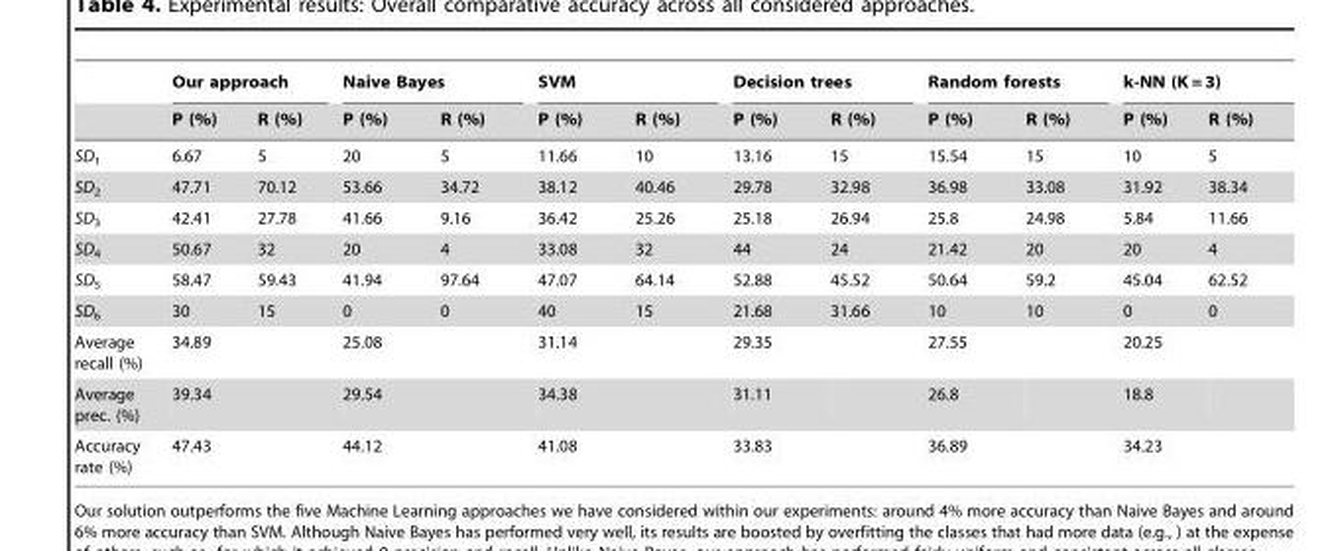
<table><thead><tr><td rowspan="2"></td><td colspan="2">Our approach</td><td colspan="2">Naive Bayes</td><td colspan="2">SVM</td><td colspan="2">Decision trees</td><td colspan="2">Random forests</td><td colspan="2">k-NN (K = 3)</td></tr><tr><td>P (%)</td><td>R (%)</td><td>P (%)</td><td>R (%)</td><td>P (%)</td><td>R (%)</td><td>P (%)</td><td>R (%)</td><td>P (%)</td><td>R (%)</td><td>P (%)</td><td>R (%)</td></tr></thead><tbody><tr><td>SD<sub>1</sub></td><td>6.67</td><td>5</td><td>20</td><td>5</td><td>11.66</td><td>10</td><td>13.16</td><td>15</td><td>15.54</td><td>15</td><td>10</td><td>5</td></tr><tr><td>SD<sub>2</sub></td><td>47.71</td><td>70.12</td><td>53.66</td><td>34.72</td><td>38.12</td><td>40.46</td><td>29.78</td><td>32.98</td><td>36.98</td><td>33.08</td><td>31.92</td><td>38.34</td></tr><tr><td>SD<sub>3</sub></td><td>42.41</td><td>27.78</td><td>41.66</td><td>9.16</td><td>36.42</td><td>25.26</td><td>25.18</td><td>26.94</td><td>25.8</td><td>24.98</td><td>5.84</td><td>11.66</td></tr><tr><td>SD<sub>4</sub></td><td>50.67</td><td>32</td><td>20</td><td>4</td><td>33.08</td><td>32</td><td>44</td><td>24</td><td>21.42</td><td>20</td><td>20</td><td>4</td></tr><tr><td>SD<sub>5</sub></td><td>58.47</td><td>59.43</td><td>41.94</td><td>97.64</td><td>47.07</td><td>64.14</td><td>52.88</td><td>45.52</td><td>50.64</td><td>59.2</td><td>45.04</td><td>62.52</td></tr><tr><td>SD<sub>6</sub></td><td>30</td><td>15</td><td>0</td><td>0</td><td>40</td><td>15</td><td>21.68</td><td>31.66</td><td>10</td><td>10</td><td>0</td><td>0</td></tr><tr><td>Average recall (%)</td><td>34.89</td><td></td><td>25.08</td><td></td><td>31.14</td><td></td><td>29.35</td><td></td><td>27.55</td><td></td><td>20.25</td><td></td></tr><tr><td>Average prec. (%)</td><td>39.34</td><td></td><td>29.54</td><td></td><td>34.38</td><td></td><td>31.11</td><td></td><td>26.8</td><td></td><td>18.8</td><td></td></tr><tr><td>Accuracy rate (%)</td><td>47.43</td><td></td><td>44.12</td><td></td><td>41.08</td><td></td><td>33.83</td><td></td><td>36.89</td><td></td><td>34.23</td><td></td></tr></tbody></table>